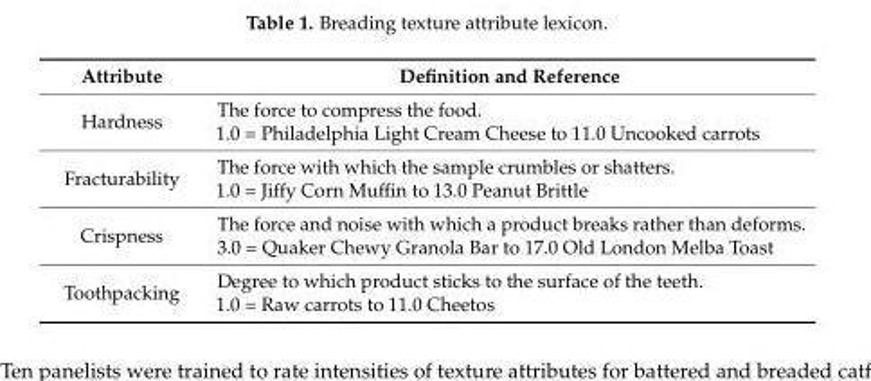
<table><thead><tr><td>Attribute</td><td>Definition and Reference</td></tr></thead><tbody><tr><td>Hardness</td><td>The force to compress the food. 1.0 = Philadelphia Light Cream Cheese to 11.0 Uncooked carrots</td></tr><tr><td>Fracturability</td><td>The force with which the sample crumbles or shatters. 1.0 = Jiffy Corn Muffin to 13.0 Peanut Brittle</td></tr><tr><td>Crispness</td><td>The force and noise with which a product breaks rather than deforms. 3.0 = Quaker Chewy Granola Bar to 17.0 Old London Melba Toast</td></tr><tr><td>Toothpacking</td><td>Degree to which product sticks to the surface of the teeth. 1.0 = Raw carrots to 11.0 Cheetos</td></tr></tbody></table>